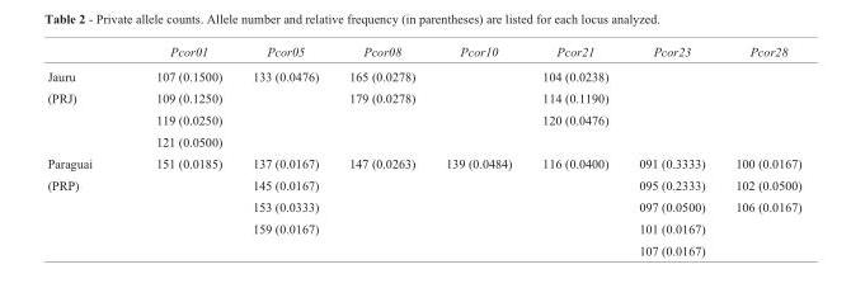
<table><thead><tr><td></td><td>Pcor01</td><td>Pcor05</td><td>Pcor08</td><td>Pcor10</td><td>Pcor21</td><td>Pcor23</td><td>Pcor28</td></tr></thead><tbody><tr><td>Jauru</td><td>107 (0.1500)</td><td>133 (0.0476)</td><td>165 (0.0278)</td><td></td><td>104 (0.0238)</td><td></td><td></td></tr><tr><td rowspan="3">(PRJ)</td><td>109 (0.1250)</td><td></td><td>179 (0.0278)</td><td></td><td>114 (0.1190)</td><td></td><td></td></tr><tr><td>119 (0.0250)</td><td></td><td></td><td></td><td>120 (0.0476)</td><td></td><td></td></tr><tr><td>121 (0.0500)</td><td></td><td></td><td></td><td></td><td></td><td></td></tr><tr><td>Paraguai</td><td>151 (0.0185)</td><td>137 (0.0167)</td><td>147 (0.0263)</td><td>139 (0.0484)</td><td>116 (0.0400)</td><td>091 (0.3333)</td><td>100 (0.0167)</td></tr><tr><td rowspan="4">(PRP)</td><td></td><td>145 (0.0167)</td><td></td><td></td><td></td><td>095 (0.2333)</td><td>102 (0.0500)</td></tr><tr><td></td><td>153 (0.0333)</td><td></td><td></td><td></td><td>097 (0.0500)</td><td>106 (0.0167)</td></tr><tr><td></td><td>159 (0.0167)</td><td></td><td></td><td></td><td>101 (0.0167)</td><td></td></tr><tr><td></td><td></td><td></td><td></td><td></td><td>107 (0.0167)</td><td></td></tr></tbody></table>